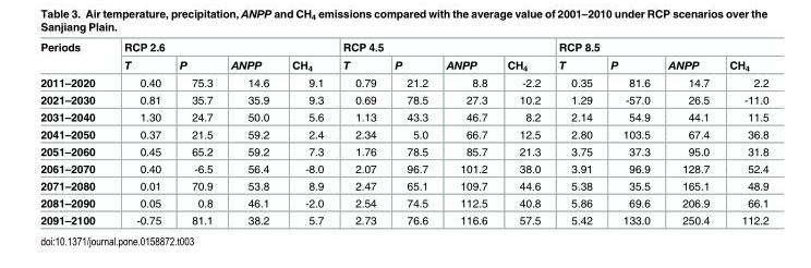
<table><thead><tr><td rowspan="2">Periods</td><td colspan="4">RCP 2.6</td><td colspan="4">RCP 4.5</td><td colspan="4">RCP 8.5</td></tr><tr><td>T</td><td>P</td><td>ANPP</td><td>CH<sub>4</sub></td><td>T</td><td>P</td><td>ANPP</td><td>CH<sub>4</sub></td><td>T</td><td>P</td><td>ANPP</td><td>CH<sub>4</sub></td></tr></thead><tbody><tr><td>2011–2020</td><td>0.40</td><td>75.3</td><td>14.6</td><td>9.1</td><td>0.79</td><td>21.2</td><td>8.8</td><td>-2.2</td><td>0.35</td><td>81.6</td><td>14.7</td><td>2.2</td></tr><tr><td>2021–2030</td><td>0.81</td><td>35.7</td><td>35.9</td><td>9.3</td><td>0.69</td><td>78.5</td><td>27.3</td><td>10.2</td><td>1.29</td><td>-57.0</td><td>26.5</td><td>-11.0</td></tr><tr><td>2031–2040</td><td>1.30</td><td>24.7</td><td>50.0</td><td>5.6</td><td>1.13</td><td>43.3</td><td>46.7</td><td>8.2</td><td>2.14</td><td>54.9</td><td>44.1</td><td>11.5</td></tr><tr><td>2041–2050</td><td>0.37</td><td>21.5</td><td>59.2</td><td>2.4</td><td>2.34</td><td>5.0</td><td>66.7</td><td>12.5</td><td>2.80</td><td>103.5</td><td>67.4</td><td>36.8</td></tr><tr><td>2051–2060</td><td>0.45</td><td>65.2</td><td>59.2</td><td>7.3</td><td>1.76</td><td>78.5</td><td>85.7</td><td>21.3</td><td>3.75</td><td>37.3</td><td>95.0</td><td>31.8</td></tr><tr><td>2061–2070</td><td>0.40</td><td>-6.5</td><td>56.4</td><td>-8.0</td><td>2.07</td><td>96.7</td><td>101.2</td><td>38.0</td><td>3.91</td><td>96.9</td><td>128.7</td><td>52.4</td></tr><tr><td>2071–2080</td><td>0.01</td><td>70.9</td><td>53.8</td><td>8.9</td><td>2.47</td><td>65.1</td><td>109.7</td><td>44.6</td><td>5.38</td><td>35.5</td><td>165.1</td><td>48.9</td></tr><tr><td>2081–2090</td><td>0.05</td><td>0.8</td><td>46.1</td><td>-2.0</td><td>2.54</td><td>74.5</td><td>112.5</td><td>40.8</td><td>5.86</td><td>69.6</td><td>206.9</td><td>66.1</td></tr><tr><td>2091–2100</td><td>-0.75</td><td>81.1</td><td>38.2</td><td>5.7</td><td>2.73</td><td>76.6</td><td>116.6</td><td>57.5</td><td>5.42</td><td>133.0</td><td>250.4</td><td>112.2</td></tr></tbody></table>